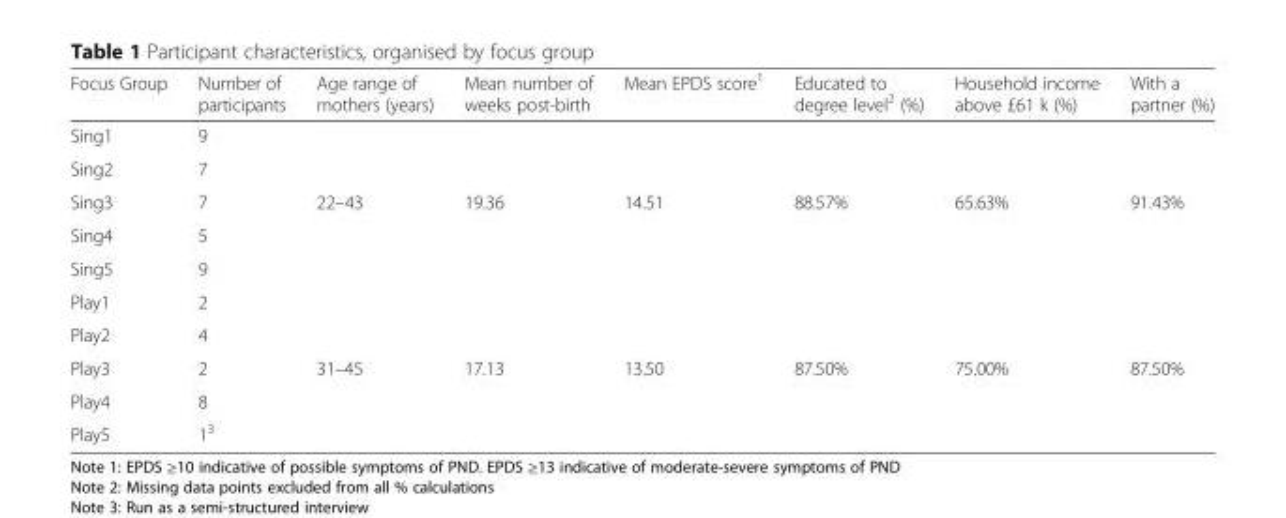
<table><thead><tr><td>Focus Group</td><td>Number of participants</td><td>Age range of mothers (years)</td><td>Mean number of weeks post-birth</td><td>Mean EPDS score<sup>1</sup></td><td>Educated to degree level<sup>2</sup> (%)</td><td>Household income above £61 k (%)</td><td>With a partner (%)</td></tr></thead><tbody><tr><td>Sing1</td><td>9</td><td></td><td></td><td></td><td></td><td></td><td></td></tr><tr><td>Sing2</td><td>7</td><td></td><td></td><td></td><td></td><td></td><td></td></tr><tr><td>Sing3</td><td>7</td><td>22–43</td><td>19.36</td><td>14.51</td><td>88.57%</td><td>65.63%</td><td>91.43%</td></tr><tr><td>Sing4</td><td>5</td><td></td><td></td><td></td><td></td><td></td><td></td></tr><tr><td>Sing5</td><td>9</td><td></td><td></td><td></td><td></td><td></td><td></td></tr><tr><td>Play1</td><td>2</td><td></td><td></td><td></td><td></td><td></td><td></td></tr><tr><td>Play2</td><td>4</td><td></td><td></td><td></td><td></td><td></td><td></td></tr><tr><td>Play3</td><td>2</td><td>31–45</td><td>17.13</td><td>13.50</td><td>87.50%</td><td>75.00%</td><td>87.50%</td></tr><tr><td>Play4</td><td>8</td><td></td><td></td><td></td><td></td><td></td><td></td></tr><tr><td>Play5</td><td>1<sup>3</sup></td><td></td><td></td><td></td><td></td><td></td><td></td></tr></tbody></table>